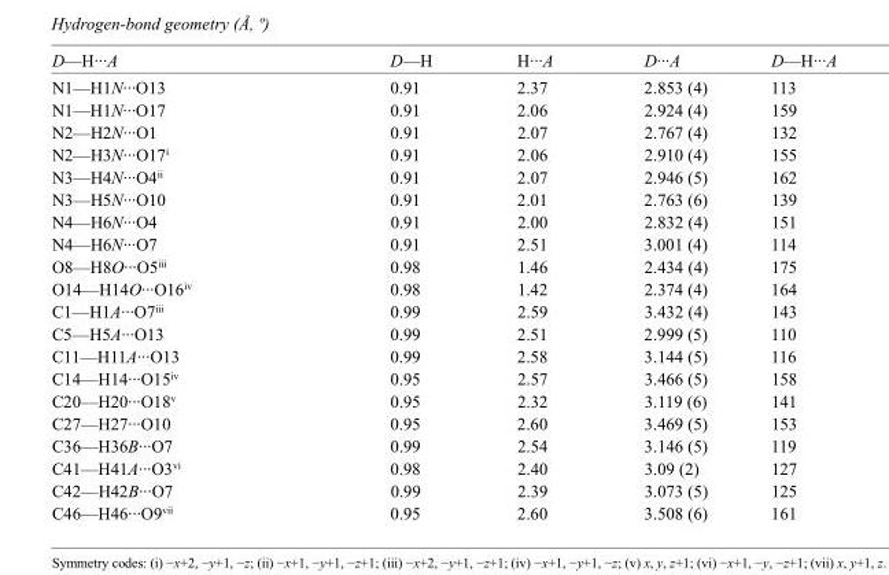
<table><tbody><tr><td>D—H···A</td><td>D—H</td><td>H···A</td><td>D···A</td><td>D—H···A</td></tr><tr><td>N1—H1N···O13</td><td>0.91</td><td>2.37</td><td>2.853 (4)</td><td>113</td></tr><tr><td>N1—H1N···O17</td><td>0.91</td><td>2.06</td><td>2.924 (4)</td><td>159</td></tr><tr><td>N2—H2N···O1</td><td>0.91</td><td>2.07</td><td>2.767 (4)</td><td>132</td></tr><tr><td>N2—H3N···O17<sup>i</sup></td><td>0.91</td><td>2.06</td><td>2.910 (4)</td><td>155</td></tr><tr><td>N3—H4N···O4<sup>ii</sup></td><td>0.91</td><td>2.07</td><td>2.946 (5)</td><td>162</td></tr><tr><td>N3—H5N···O10</td><td>0.91</td><td>2.01</td><td>2.763 (6)</td><td>139</td></tr><tr><td>N4—H6N···O4</td><td>0.91</td><td>2.00</td><td>2.832 (4)</td><td>151</td></tr><tr><td>N4—H6N···O7</td><td>0.91</td><td>2.51</td><td>3.001 (4)</td><td>114</td></tr><tr><td>O8—H8O···O5<sup>iii</sup></td><td>0.98</td><td>1.46</td><td>2.434 (4)</td><td>175</td></tr><tr><td>O14—H14O···O16<sup>iv</sup></td><td>0.98</td><td>1.42</td><td>2.374 (4)</td><td>164</td></tr><tr><td>C1—H1A···O7<sup>iii</sup></td><td>0.99</td><td>2.59</td><td>3.432 (4)</td><td>143</td></tr><tr><td>C5—H5A···O13</td><td>0.99</td><td>2.51</td><td>2.999 (5)</td><td>110</td></tr><tr><td>C11—H11A···O13</td><td>0.99</td><td>2.58</td><td>3.144 (5)</td><td>116</td></tr><tr><td>C14—H14···O15<sup>iv</sup></td><td>0.95</td><td>2.57</td><td>3.466 (5)</td><td>158</td></tr><tr><td>C20—H20···O18<sup>v</sup></td><td>0.95</td><td>2.32</td><td>3.119 (6)</td><td>141</td></tr><tr><td>C27—H27···O10</td><td>0.95</td><td>2.60</td><td>3.469 (5)</td><td>153</td></tr><tr><td>C36—H36B···O7</td><td>0.99</td><td>2.54</td><td>3.146 (5)</td><td>119</td></tr><tr><td>C41—H41A···O3<sup>vi</sup></td><td>0.98</td><td>2.40</td><td>3.09 (2)</td><td>127</td></tr><tr><td>C42—H42B···O7</td><td>0.99</td><td>2.39</td><td>3.073 (5)</td><td>125</td></tr><tr><td>C46—H46···O9<sup>vii</sup></td><td>0.95</td><td>2.60</td><td>3.508 (6)</td><td>161</td></tr></tbody></table>